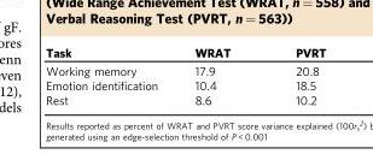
<table><thead><tr><td>Task</td><td>WRAT</td><td>PVRT</td></tr></thead><tbody><tr><td>Working memory</td><td>17.9</td><td>20.8</td></tr><tr><td>Emotion identification</td><td>10.4</td><td>18.5</td></tr><tr><td>Rest</td><td>8.6</td><td>10.2</td></tr></tbody></table>